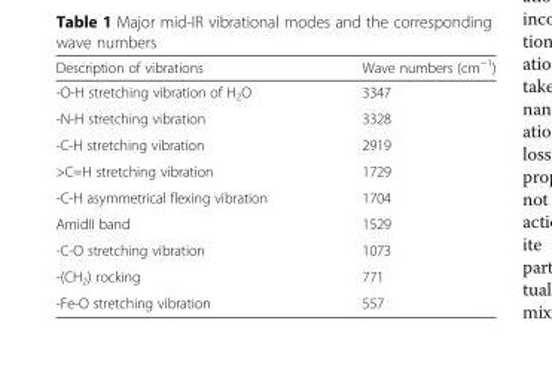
<table><thead><tr><td>Description of vibrations</td><td>Wave numbers (cm<sup>−1</sup>)</td></tr></thead><tbody><tr><td>-O-H stretching vibration of H<sub>2</sub>O</td><td>3347</td></tr><tr><td>-N-H stretching vibration</td><td>3328</td></tr><tr><td>-C-H stretching vibration</td><td>2919</td></tr><tr><td>&gt;C=H stretching vibration</td><td>1729</td></tr><tr><td>-C-H asymmetrical flexing vibration</td><td>1704</td></tr><tr><td>AmidII band</td><td>1529</td></tr><tr><td>-C-O stretching vibration</td><td>1073</td></tr><tr><td>-(CH<sub>2</sub>) rocking</td><td>771</td></tr><tr><td>-Fe-O stretching vibration</td><td>557</td></tr></tbody></table>